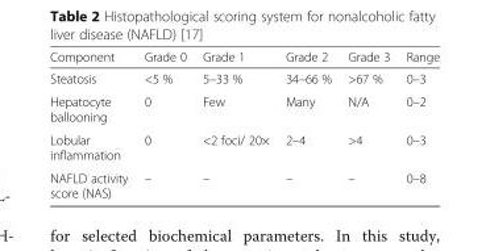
<table><thead><tr><td>Component</td><td>Grade 0</td><td>Grade 1</td><td>Grade 2</td><td>Grade 3</td><td>Range</td></tr></thead><tbody><tr><td>Steatosis</td><td>&lt;5 %</td><td>5–33 %</td><td>34–66 %</td><td>&gt;67 %</td><td>0–3</td></tr><tr><td>Hepatocyte ballooning</td><td>0</td><td>Few</td><td>Many</td><td>N/A</td><td>0–2</td></tr><tr><td>Lobular inflammation</td><td>0</td><td>&lt;2 foci/ 20×</td><td>2–4</td><td>&gt;4</td><td>0–3</td></tr><tr><td>NAFLD activity score (NAS)</td><td>–</td><td>–</td><td>–</td><td>–</td><td>0–8</td></tr></tbody></table>